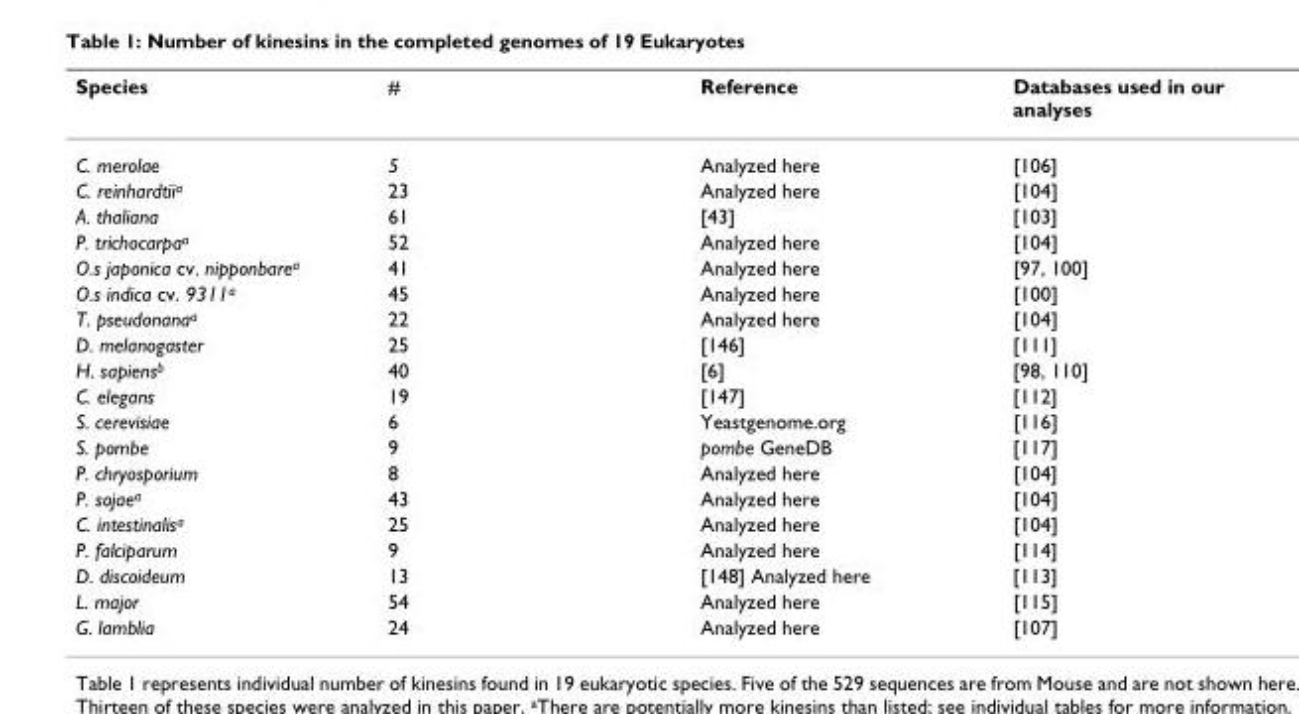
<table><thead><tr><td>Species</td><td>#</td><td>Reference</td><td>Databases used in our analyses</td></tr></thead><tbody><tr><td>C. merolae</td><td>5</td><td>Analyzed here</td><td>[106]</td></tr><tr><td>C. reinhardtiia</td><td>23</td><td>Analyzed here</td><td>[104]</td></tr><tr><td>A. thaliana</td><td>61</td><td>[43]</td><td>[103]</td></tr><tr><td>P. trichocarpaa</td><td>52</td><td>Analyzed here</td><td>[104]</td></tr><tr><td>O.s japonica cv. nipponbarea</td><td>41</td><td>Analyzed here</td><td>[97, 100]</td></tr><tr><td>O.s indica cv. 9311a</td><td>45</td><td>Analyzed here</td><td>[100]</td></tr><tr><td>T. pseudonanaa</td><td>22</td><td>Analyzed here</td><td>[104]</td></tr><tr><td>D. melanogaster</td><td>25</td><td>[146]</td><td>[111]</td></tr><tr><td>H. sapiensb</td><td>40</td><td>[6]</td><td>[98, 110]</td></tr><tr><td>C. elegans</td><td>19</td><td>[147]</td><td>[112]</td></tr><tr><td>S. cerevisiae</td><td>6</td><td>Yeastgenome.org</td><td>[116]</td></tr><tr><td>S. pombe</td><td>9</td><td>pombe GeneDB</td><td>[117]</td></tr><tr><td>P. chryosporium</td><td>8</td><td>Analyzed here</td><td>[104]</td></tr><tr><td>P. sojaea</td><td>43</td><td>Analyzed here</td><td>[104]</td></tr><tr><td>C. intestinalisa</td><td>25</td><td>Analyzed here</td><td>[104]</td></tr><tr><td>P. falciparum</td><td>9</td><td>Analyzed here</td><td>[114]</td></tr><tr><td>D. discoideum</td><td>13</td><td>[148] Analyzed here</td><td>[113]</td></tr><tr><td>L. major</td><td>54</td><td>Analyzed here</td><td>[115]</td></tr><tr><td>G. lamblia</td><td>24</td><td>Analyzed here</td><td>[107]</td></tr></tbody></table>